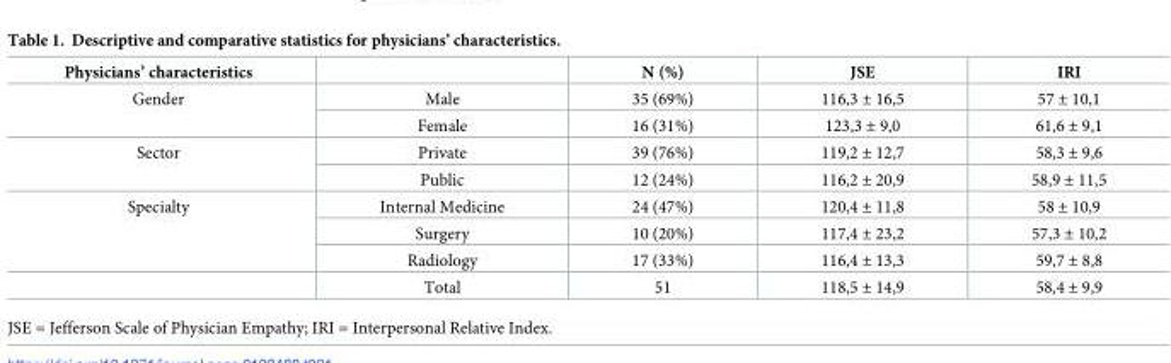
<table><thead><tr><td>Physicians’ characteristics</td><td></td><td>N (%)</td><td>JSE</td><td>IRI</td></tr></thead><tbody><tr><td rowspan="2">Gender</td><td>Male</td><td>35 (69%)</td><td>116,3 ± 16,5</td><td>57 ± 10,1</td></tr><tr><td>Female</td><td>16 (31%)</td><td>123,3 ± 9,0</td><td>61,6 ± 9,1</td></tr><tr><td rowspan="2">Sector</td><td>Private</td><td>39 (76%)</td><td>119,2 ± 12,7</td><td>58,3 ± 9,6</td></tr><tr><td>Public</td><td>12 (24%)</td><td>116,2 ± 20,9</td><td>58,9 ± 11,5</td></tr><tr><td rowspan="4">Specialty</td><td>Internal Medicine</td><td>24 (47%)</td><td>120,4 ± 11,8</td><td>58 ± 10,9</td></tr><tr><td>Surgery</td><td>10 (20%)</td><td>117,4 ± 23,2</td><td>57,3 ± 10,2</td></tr><tr><td>Radiology</td><td>17 (33%)</td><td>116,4 ± 13,3</td><td>59,7 ± 8,8</td></tr><tr><td>Total</td><td>51</td><td>118,5 ± 14,9</td><td>58,4 ± 9,9</td></tr></tbody></table>